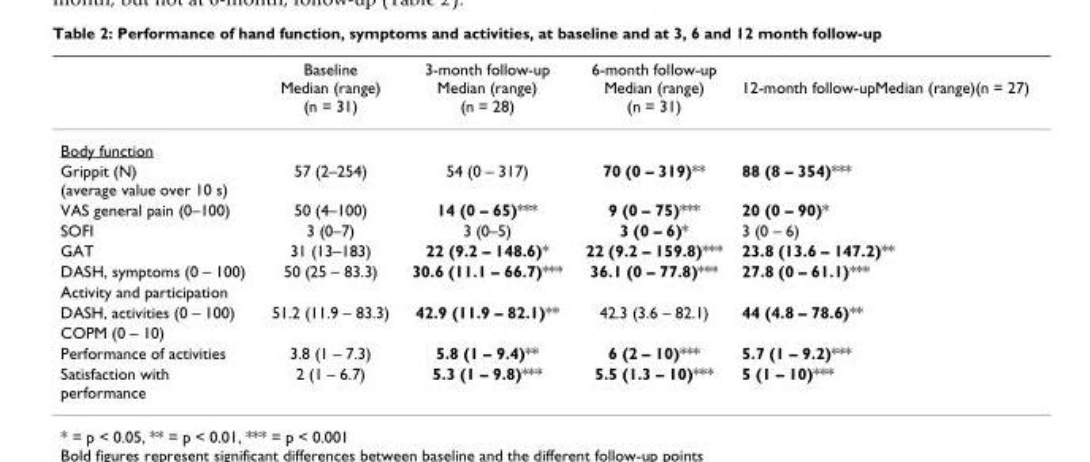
<table><thead><tr><td></td><td>Baseline Median (range) (n = 31)</td><td>3-month follow-up Median (range) (n = 28)</td><td>6-month follow-up Median (range) (n = 31)</td><td>12-month follow-upMedian (range)(n = 27)</td></tr></thead><tbody><tr><td colspan="5">Body function</td></tr><tr><td>Grippit (N) (average value over 10 s)</td><td>57 (2–254)</td><td>54 (0 – 317)</td><td>70 (0 – 319)**</td><td>88 (8 – 354)***</td></tr><tr><td>VAS general pain (0–100)</td><td>50 (4–100)</td><td>14 (0 – 65)***</td><td>9 (0 – 75)***</td><td>20 (0 – 90)*</td></tr><tr><td>SOFI</td><td>3 (0–7)</td><td>3 (0–5)</td><td>3 (0 – 6)*</td><td>3 (0 – 6)</td></tr><tr><td>GAT</td><td>31 (13–183)</td><td>22 (9.2 – 148.6)*</td><td>22 (9.2 – 159.8)***</td><td>23.8 (13.6 – 147.2)**</td></tr><tr><td>DASH, symptoms (0 – 100)</td><td>50 (25 – 83.3)</td><td>30.6 (11.1 – 66.7)***</td><td>36.1 (0 – 77.8)***</td><td>27.8 (0 – 61.1)***</td></tr><tr><td colspan="5">Activity and participation</td></tr><tr><td>DASH, activities (0 – 100)</td><td>51.2 (11.9 – 83.3)</td><td>42.9 (11.9 – 82.1)**</td><td>42.3 (3.6 – 82.1)</td><td>44 (4.8 – 78.6)**</td></tr><tr><td colspan="5">COPM (0 – 10)</td></tr><tr><td>Performance of activities</td><td>3.8 (1 – 7.3)</td><td>5.8 (1 – 9.4)**</td><td>6 (2 – 10)***</td><td>5.7 (1 – 9.2)***</td></tr><tr><td>Satisfaction with performance</td><td>2 (1 – 6.7)</td><td>5.3 (1 – 9.8)***</td><td>5.5 (1.3 – 10)***</td><td>5 (1 – 10)***</td></tr></tbody></table>